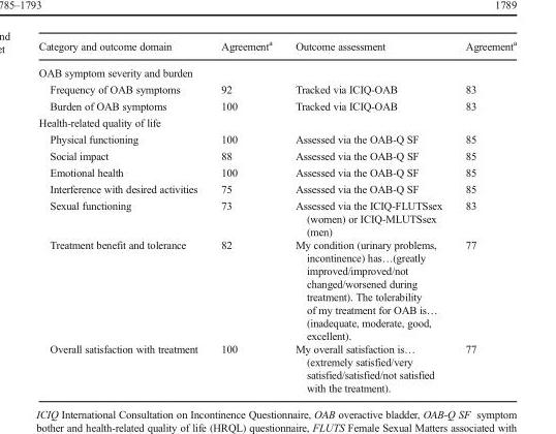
<table><thead><tr><td>Category and outcome domain</td><td>Agreement<sup>a</sup></td><td>Outcome assessment</td><td>Agreement<sup>a</sup></td></tr></thead><tbody><tr><td colspan="4">OAB symptom severity and burden</td></tr><tr><td>Frequency of OAB symptoms</td><td>92</td><td>Tracked via ICIQ-OAB</td><td>83</td></tr><tr><td>Burden of OAB symptoms</td><td>100</td><td>Tracked via ICIQ-OAB</td><td>83</td></tr><tr><td colspan="4">Health-related quality of life</td></tr><tr><td>Physical functioning</td><td>100</td><td>Assessed via the OAB-Q SF</td><td>85</td></tr><tr><td>Social impact</td><td>88</td><td>Assessed via the OAB-Q SF</td><td>85</td></tr><tr><td>Emotional health</td><td>100</td><td>Assessed via the OAB-Q SF</td><td>85</td></tr><tr><td>Interference with desired activities</td><td>75</td><td>Assessed via the OAB-Q SF</td><td>85</td></tr><tr><td>Sexual functioning</td><td>73</td><td>Assessed via the ICIQ-FLUTSsex (women) or ICIQ-MLUTSsex (men)</td><td>83</td></tr><tr><td>Treatment benefit and tolerance</td><td>82</td><td>My condition (urinary problems, incontinence) has…(greatly improved/improved/not changed/worsened during treatment). The tolerability of my treatment for OAB is… (inadequate, moderate, good, excellent).</td><td>77</td></tr><tr><td>Overall satisfaction with treatment</td><td>100</td><td>My overall satisfaction is… (extremely satisfied/very satisfied/satisfied/not satisfied with the treatment).</td><td>77</td></tr></tbody></table>